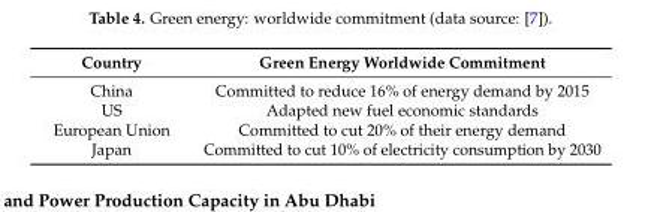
<table><thead><tr><td>Country</td><td>Green Energy Worldwide Commitment</td></tr></thead><tbody><tr><td>China</td><td>Committed to reduce 16% of energy demand by 2015</td></tr><tr><td>US</td><td>Adapted new fuel economic standards</td></tr><tr><td>European Union</td><td>Committed to cut 20% of their energy demand</td></tr><tr><td>Japan</td><td>Committed to cut 10% of electricity consumption by 2030</td></tr></tbody></table>